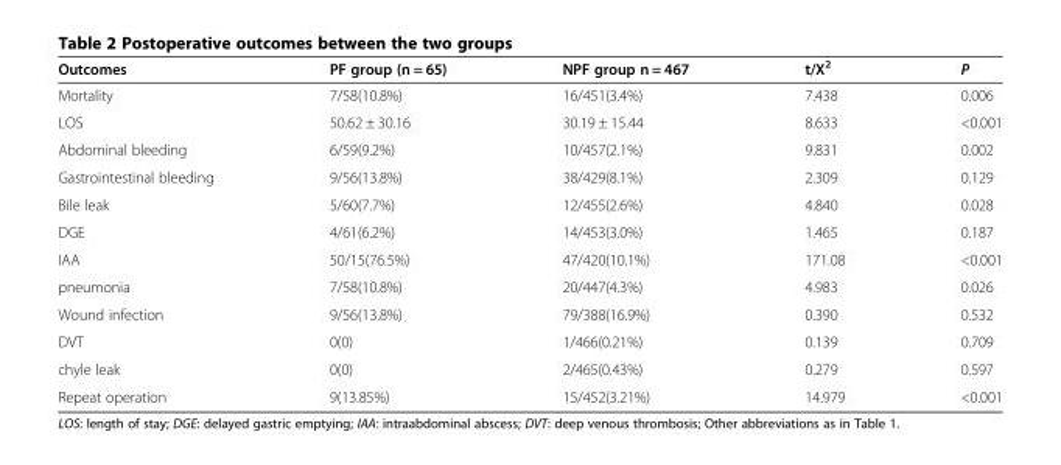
<table><thead><tr><td>Outcomes</td><td>PF group (n = 65)</td><td>NPF group n = 467</td><td>t/X<sup>2</sup></td><td>P</td></tr></thead><tbody><tr><td>Mortality</td><td>7/58(10.8%)</td><td>16/451(3.4%)</td><td>7.438</td><td>0.006</td></tr><tr><td>LOS</td><td>50.62 ± 30.16</td><td>30.19 ± 15.44</td><td>8.633</td><td>&lt;0.001</td></tr><tr><td>Abdominal bleeding</td><td>6/59(9.2%)</td><td>10/457(2.1%)</td><td>9.831</td><td>0.002</td></tr><tr><td>Gastrointestinal bleeding</td><td>9/56(13.8%)</td><td>38/429(8.1%)</td><td>2.309</td><td>0.129</td></tr><tr><td>Bile leak</td><td>5/60(7.7%)</td><td>12/455(2.6%)</td><td>4.840</td><td>0.028</td></tr><tr><td>DGE</td><td>4/61(6.2%)</td><td>14/453(3.0%)</td><td>1.465</td><td>0.187</td></tr><tr><td>IAA</td><td>50/15(76.5%)</td><td>47/420(10.1%)</td><td>171.08</td><td>&lt;0.001</td></tr><tr><td>pneumonia</td><td>7/58(10.8%)</td><td>20/447(4.3%)</td><td>4.983</td><td>0.026</td></tr><tr><td>Wound infection</td><td>9/56(13.8%)</td><td>79/388(16.9%)</td><td>0.390</td><td>0.532</td></tr><tr><td>DVT</td><td>0(0)</td><td>1/466(0.21%)</td><td>0.139</td><td>0.709</td></tr><tr><td>chyle leak</td><td>0(0)</td><td>2/465(0.43%)</td><td>0.279</td><td>0.597</td></tr><tr><td>Repeat operation</td><td>9(13.85%)</td><td>15/452(3.21%)</td><td>14.979</td><td>&lt;0.001</td></tr></tbody></table>